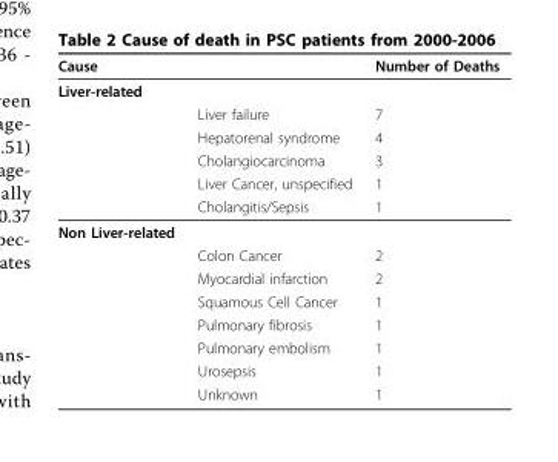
<table><thead><tr><td>Cause</td><td></td><td>Number of Deaths</td></tr></thead><tbody><tr><td colspan="3">Liver-related</td></tr><tr><td></td><td>Liver failure</td><td>7</td></tr><tr><td></td><td>Hepatorenal syndrome</td><td>4</td></tr><tr><td></td><td>Cholangiocarcinoma</td><td>3</td></tr><tr><td></td><td>Liver Cancer, unspecified</td><td>1</td></tr><tr><td></td><td>Cholangitis/Sepsis</td><td>1</td></tr><tr><td colspan="3">Non Liver-related</td></tr><tr><td></td><td>Colon Cancer</td><td>2</td></tr><tr><td></td><td>Myocardial infarction</td><td>2</td></tr><tr><td></td><td>Squamous Cell Cancer</td><td>1</td></tr><tr><td></td><td>Pulmonary fibrosis</td><td>1</td></tr><tr><td></td><td>Pulmonary embolism</td><td>1</td></tr><tr><td></td><td>Urosepsis</td><td>1</td></tr><tr><td></td><td>Unknown</td><td>1</td></tr></tbody></table>